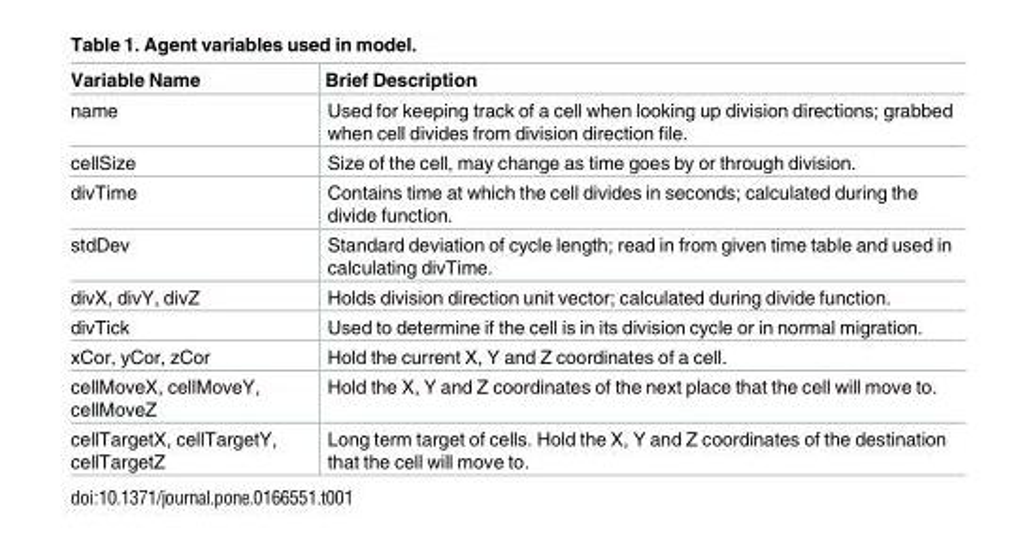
<table><thead><tr><td>Variable Name</td><td>Brief Description</td></tr></thead><tbody><tr><td>name</td><td>Used for keeping track of a cell when looking up division directions; grabbed when cell divides from division direction file.</td></tr><tr><td>cellSize</td><td>Size of the cell, may change as time goes by or through division.</td></tr><tr><td>divTime</td><td>Contains time at which the cell divides in seconds; calculated during the divide function.</td></tr><tr><td>stdDev</td><td>Standard deviation of cycle length; read in from given time table and used in calculating divTime.</td></tr><tr><td>divX, divY, divZ</td><td>Holds division direction unit vector; calculated during divide function.</td></tr><tr><td>divTick</td><td>Used to determine if the cell is in its division cycle or in normal migration.</td></tr><tr><td>xCor, yCor, zCor</td><td>Hold the current X, Y and Z coordinates of a cell.</td></tr><tr><td>cellMoveX, cellMoveY, cellMoveZ</td><td>Hold the X, Y and Z coordinates of the next place that the cell will move to.</td></tr><tr><td>cellTargetX, cellTargetY, cellTargetZ</td><td>Long term target of cells. Hold the X, Y and Z coordinates of the destination that the cell will move to.</td></tr></tbody></table>